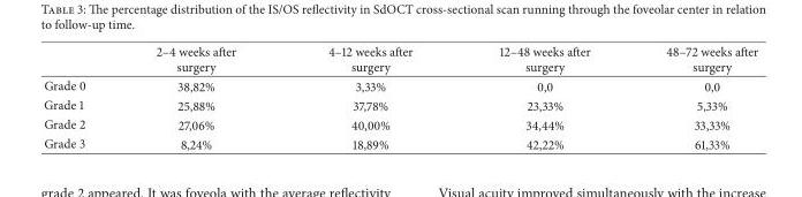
<table><thead><tr><td></td><td>2–4 weeks after surgery</td><td>4–12 weeks after surgery</td><td>12–48 weeks after surgery</td><td>48–72 weeks after surgery</td></tr></thead><tbody><tr><td>Grade 0</td><td>38,82%</td><td>3,33%</td><td>0,0</td><td>0,0</td></tr><tr><td>Grade 1</td><td>25,88%</td><td>37,78%</td><td>23,33%</td><td>5,33%</td></tr><tr><td>Grade 2</td><td>27,06%</td><td>40,00%</td><td>34,44%</td><td>33,33%</td></tr><tr><td>Grade 3</td><td>8,24%</td><td>18,89%</td><td>42,22%</td><td>61,33%</td></tr></tbody></table>